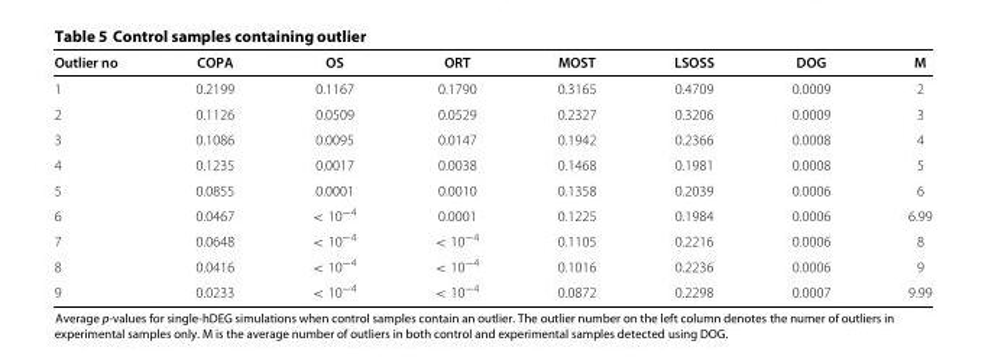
<table><thead><tr><td>Outlier no</td><td>COPA</td><td>OS</td><td>ORT</td><td>MOST</td><td>LSOSS</td><td>DOG</td><td>M</td></tr></thead><tbody><tr><td>1</td><td>0.2199</td><td>0.1167</td><td>0.1790</td><td>0.3165</td><td>0.4709</td><td>0.0009</td><td>2</td></tr><tr><td>2</td><td>0.1126</td><td>0.0509</td><td>0.0529</td><td>0.2327</td><td>0.3206</td><td>0.0009</td><td>3</td></tr><tr><td>3</td><td>0.1086</td><td>0.0095</td><td>0.0147</td><td>0.1942</td><td>0.2366</td><td>0.0008</td><td>4</td></tr><tr><td>4</td><td>0.1235</td><td>0.0017</td><td>0.0038</td><td>0.1468</td><td>0.1981</td><td>0.0008</td><td>5</td></tr><tr><td>5</td><td>0.0855</td><td>0.0001</td><td>0.0010</td><td>0.1358</td><td>0.2039</td><td>0.0006</td><td>6</td></tr><tr><td>6</td><td>0.0467</td><td>&lt; 10<sup>−4</sup></td><td>0.0001</td><td>0.1225</td><td>0.1984</td><td>0.0006</td><td>6.99</td></tr><tr><td>7</td><td>0.0648</td><td>&lt; 10<sup>−4</sup></td><td>&lt; 10<sup>−4</sup></td><td>0.1105</td><td>0.2216</td><td>0.0006</td><td>8</td></tr><tr><td>8</td><td>0.0416</td><td>&lt; 10<sup>−4</sup></td><td>&lt; 10<sup>−4</sup></td><td>0.1016</td><td>0.2236</td><td>0.0006</td><td>9</td></tr><tr><td>9</td><td>0.0233</td><td>&lt; 10<sup>−4</sup></td><td>&lt; 10<sup>−4</sup></td><td>0.0872</td><td>0.2298</td><td>0.0007</td><td>9.99</td></tr></tbody></table>